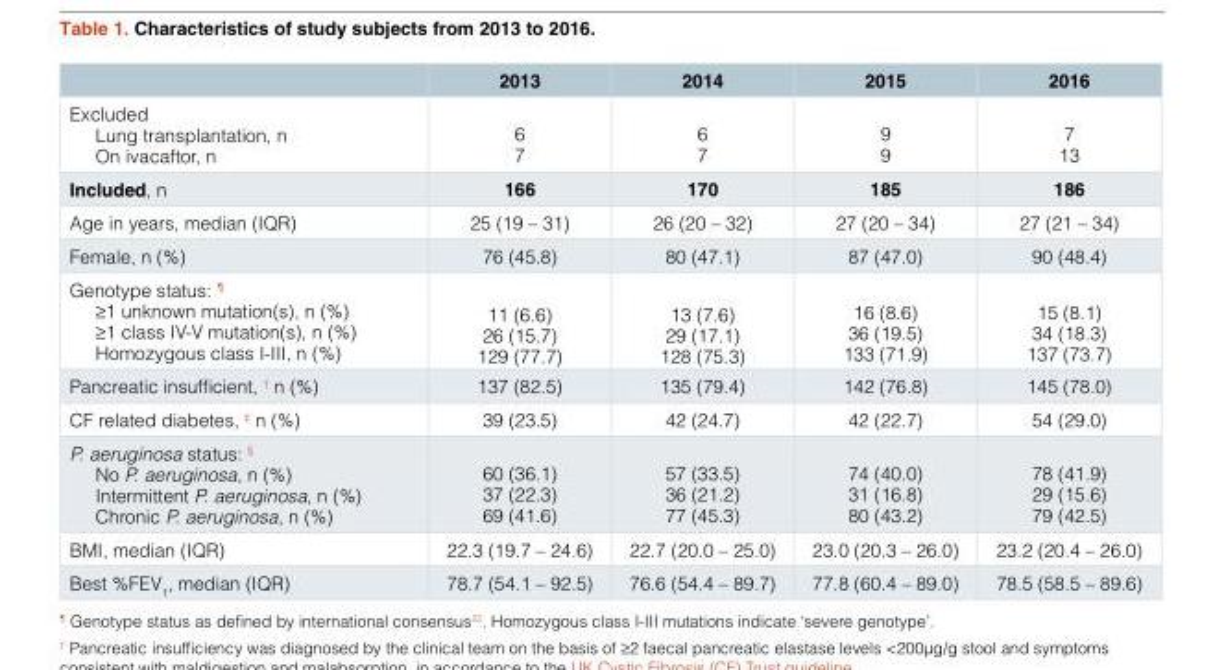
<table><thead><tr><td></td><td>2013</td><td>2014</td><td>2015</td><td>2016</td></tr></thead><tbody><tr><td>Excluded Lung transplantation, n On ivacaftor, n</td><td>6 7</td><td>6 7</td><td>9 9</td><td>7 13</td></tr><tr><td>Included, n</td><td>166</td><td>170</td><td>185</td><td>186</td></tr><tr><td>Age in years, median (IQR)</td><td>25 (19 – 31)</td><td>26 (20 – 32)</td><td>27 (20 – 34)</td><td>27 (21 – 34)</td></tr><tr><td>Female, n (%)</td><td>76 (45.8)</td><td>80 (47.1)</td><td>87 (47.0)</td><td>90 (48.4)</td></tr><tr><td>Genotype status: <sup>¶</sup> ≥1 unknown mutation(s), n (%) ≥1 class IV-V mutation(s), n (%) Homozygous class I-III, n (%)</td><td>11 (6.6) 26 (15.7) 129 (77.7)</td><td>13 (7.6) 29 (17.1) 128 (75.3)</td><td>16 (8.6) 36 (19.5) 133 (71.9)</td><td>15 (8.1) 34 (18.3) 137 (73.7)</td></tr><tr><td>Pancreatic insufficient, <sup>†</sup> n (%)</td><td>137 (82.5)</td><td>135 (79.4)</td><td>142 (76.8)</td><td>145 (78.0)</td></tr><tr><td>CF related diabetes, <sup>‡</sup> n (%)</td><td>39 (23.5)</td><td>42 (24.7)</td><td>42 (22.7)</td><td>54 (29.0)</td></tr><tr><td>P. aeruginosa status: <sup>§</sup> No P. aeruginosa, n (%) Intermittent P. aeruginosa, n (%) Chronic P. aeruginosa, n (%)</td><td>60 (36.1) 37 (22.3) 69 (41.6)</td><td>57 (33.5) 36 (21.2) 77 (45.3)</td><td>74 (40.0) 31 (16.8) 80 (43.2)</td><td>78 (41.9) 29 (15.6) 79 (42.5)</td></tr><tr><td>BMI, median (IQR)</td><td>22.3 (19.7 – 24.6)</td><td>22.7 (20.0 – 25.0)</td><td>23.0 (20.3 – 26.0)</td><td>23.2 (20.4 – 26.0)</td></tr><tr><td>Best %FEV<sub>1</sub>, median (IQR)</td><td>78.7 (54.1 – 92.5)</td><td>76.6 (54.4 – 89.7)</td><td>77.8 (60.4 – 89.0)</td><td>78.5 (58.5 – 89.6)</td></tr></tbody></table>